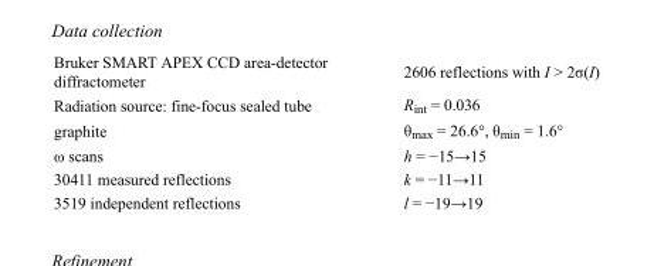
<table><tbody><tr><td>Bruker SMART APEX CCD area-detector diffractometer</td><td>2606 reflections with I &gt; 2σ(I)</td></tr><tr><td>Radiation source: fine-focus sealed tube</td><td>R<sub>int</sub> = 0.036</td></tr><tr><td>graphite</td><td>θ<sub>max</sub> = 26.6°, θ<sub>min</sub> = 1.6°</td></tr><tr><td>ω scans</td><td>h = −15→15</td></tr><tr><td>30411 measured reflections</td><td>k = −11→11</td></tr><tr><td>3519 independent reflections</td><td>l = −19→19</td></tr></tbody></table>